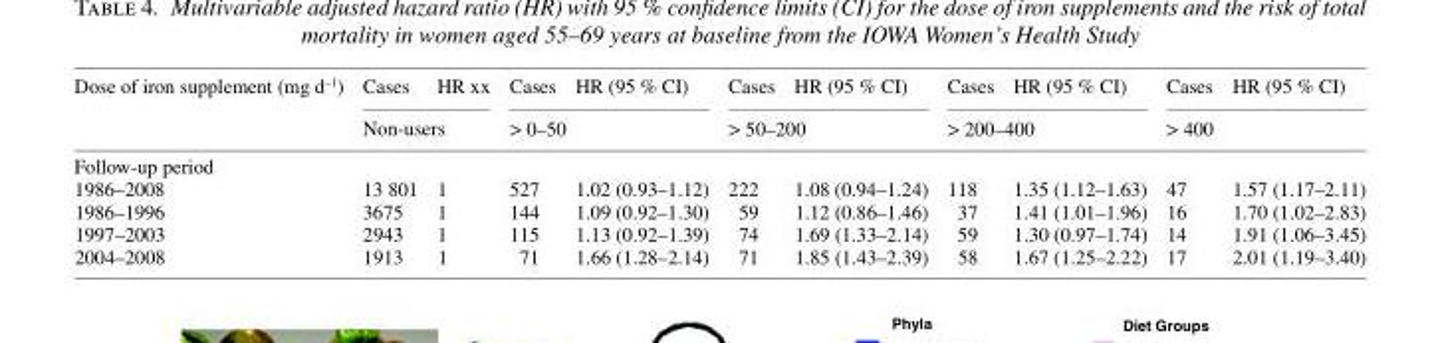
<table><thead><tr><td>Dose of iron supplement (mg d<sup>–1</sup>)</td><td>Cases</td><td>HR xx</td><td>Cases</td><td>HR (95 % CI)</td><td>Cases</td><td>HR (95 % CI)</td><td>Cases</td><td>HR (95 % CI)</td><td>Cases</td><td>HR (95 % CI)</td></tr></thead><tbody><tr><td></td><td colspan="2">Non-users</td><td colspan="2">&gt; 0–50</td><td colspan="2">&gt; 50–200</td><td colspan="2">&gt; 200–400</td><td colspan="2">&gt; 400</td></tr><tr><td colspan="11">Follow-up period</td></tr><tr><td>1986–2008</td><td>13 801</td><td>1</td><td>527</td><td>1.02 (0.93–1.12)</td><td>222</td><td>1.08 (0.94–1.24)</td><td>118</td><td>1.35 (1.12–1.63)</td><td>47</td><td>1.57 (1.17–2.11)</td></tr><tr><td>1986–1996</td><td>3675</td><td>1</td><td>144</td><td>1.09 (0.92–1.30)</td><td>59</td><td>1.12 (0.86–1.46)</td><td>37</td><td>1.41 (1.01–1.96)</td><td>16</td><td>1.70 (1.02–2.83)</td></tr><tr><td>1997–2003</td><td>2943</td><td>1</td><td>115</td><td>1.13 (0.92–1.39)</td><td>74</td><td>1.69 (1.33–2.14)</td><td>59</td><td>1.30 (0.97–1.74)</td><td>14</td><td>1.91 (1.06–3.45)</td></tr><tr><td>2004–2008</td><td>1913</td><td>1</td><td>71</td><td>1.66 (1.28–2.14)</td><td>71</td><td>1.85 (1.43–2.39)</td><td>58</td><td>1.67 (1.25–2.22)</td><td>17</td><td>2.01 (1.19–3.40)</td></tr></tbody></table>